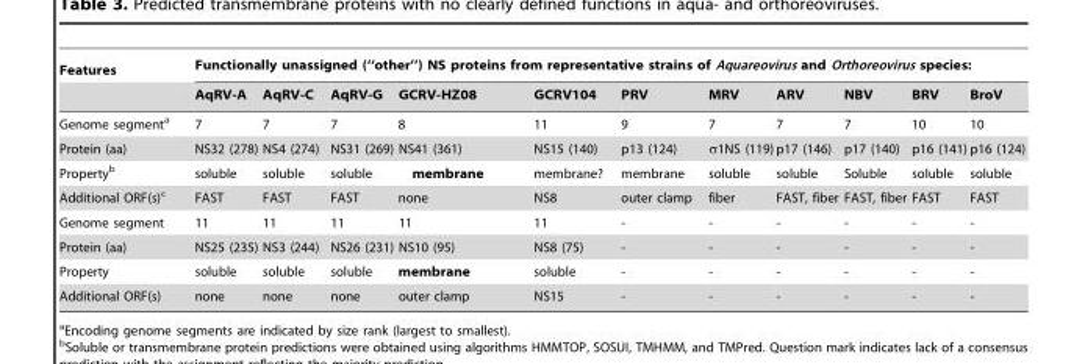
<table><thead><tr><td rowspan="2">Features</td><td colspan="11">Functionally unassigned (‘‘other’’) NS proteins from representative strains of Aquareovirus and Orthoreovirus species:</td></tr><tr><td>AqRV-A</td><td>AqRV-C</td><td>AqRV-G</td><td>GCRV-HZ08</td><td>GCRV104</td><td>PRV</td><td>MRV</td><td>ARV</td><td>NBV</td><td>BRV</td><td>BroV</td></tr></thead><tbody><tr><td>Genome segment<sup>a</sup></td><td>7</td><td>7</td><td>7</td><td>8</td><td>11</td><td>9</td><td>7</td><td>7</td><td>7</td><td>10</td><td>10</td></tr><tr><td>Protein (aa)</td><td>NS32 (278)</td><td>NS4 (274)</td><td>NS31 (269)</td><td>NS41 (361)</td><td>NS15 (140)</td><td>p13 (124)</td><td>σ1NS (119)</td><td>p17 (146)</td><td>p17 (140)</td><td>p16 (141)</td><td>p16 (124)</td></tr><tr><td>Property<sup>b</sup></td><td>soluble</td><td>soluble</td><td>soluble</td><td>membrane</td><td>membrane?</td><td>membrane</td><td>soluble</td><td>soluble</td><td>Soluble</td><td>soluble</td><td>soluble</td></tr><tr><td>Additional ORF(s)<sup>c</sup></td><td>FAST</td><td>FAST</td><td>FAST</td><td>none</td><td>NS8</td><td>outer clamp</td><td>fiber</td><td>FAST, fiber</td><td>FAST, fiber</td><td>FAST</td><td>FAST</td></tr><tr><td>Genome segment</td><td>11</td><td>11</td><td>11</td><td>11</td><td>11</td><td>-</td><td>-</td><td>-</td><td>-</td><td>-</td><td>-</td></tr><tr><td>Protein (aa)</td><td>NS25 (235)</td><td>NS3 (244)</td><td>NS26 (231)</td><td>NS10 (95)</td><td>NS8 (75)</td><td>-</td><td>-</td><td>-</td><td>-</td><td>-</td><td>-</td></tr><tr><td>Property</td><td>soluble</td><td>soluble</td><td>soluble</td><td>membrane</td><td>soluble</td><td>-</td><td>-</td><td>-</td><td>-</td><td>-</td><td>-</td></tr><tr><td>Additional ORF(s)</td><td>none</td><td>none</td><td>none</td><td>outer clamp</td><td>NS15</td><td>-</td><td>-</td><td>-</td><td>-</td><td>-</td><td>-</td></tr></tbody></table>